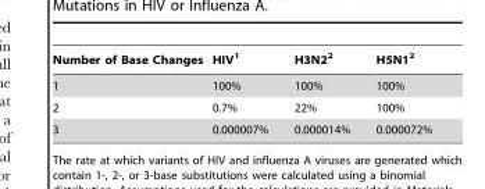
<table><thead><tr><td>Number of Base Changes</td><td>HIV<sup>1</sup></td><td>H3N2<sup>2</sup></td><td>H5N1<sup>2</sup></td></tr></thead><tbody><tr><td>1</td><td>100%</td><td>100%</td><td>100%</td></tr><tr><td>2</td><td>0.7%</td><td>22%</td><td>100%</td></tr><tr><td>3</td><td>0.000007%</td><td>0.000014%</td><td>0.000072%</td></tr></tbody></table>